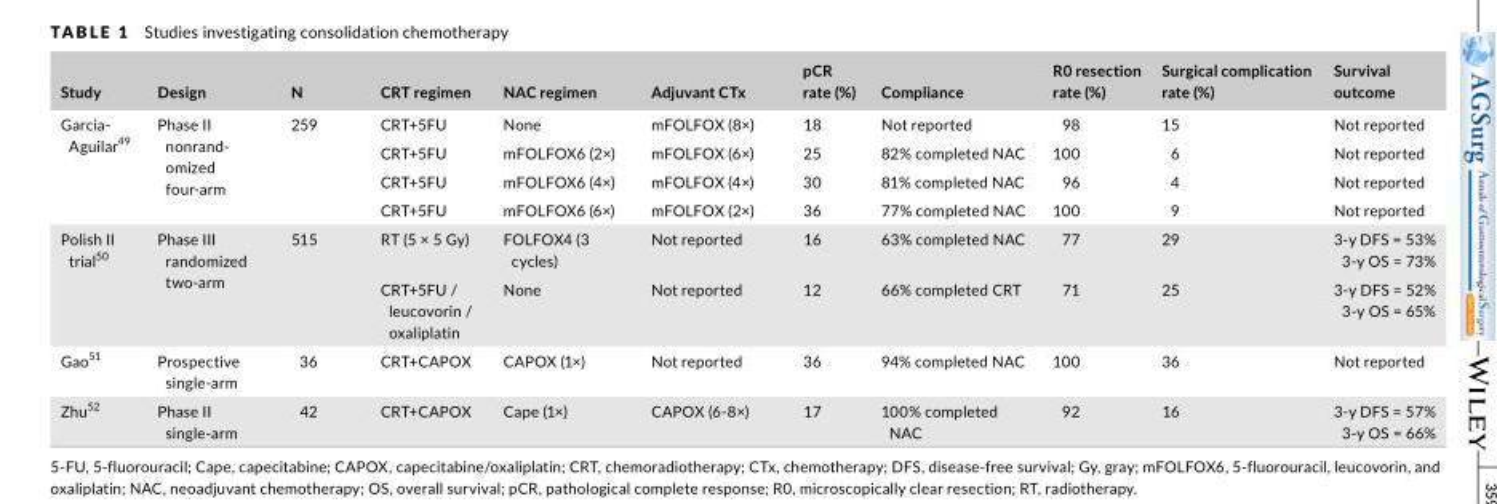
<table><thead><tr><td>Study</td><td>Design</td><td>N</td><td>CRT regimen</td><td>NAC regimen</td><td>Adjuvant CTx</td><td>pCR rate (%)</td><td>Compliance</td><td>R0 resection rate (%)</td><td>Surgical complication rate (%)</td><td>Survival outcome</td></tr></thead><tbody><tr><td rowspan="4">Garcia‐ Aguilar<sup>49</sup></td><td rowspan="4">Phase II nonrand‐ omized four‐arm</td><td rowspan="4">259</td><td>CRT+5FU</td><td>None</td><td>mFOLFOX (8×)</td><td>18</td><td>Not reported</td><td>98</td><td>15</td><td>Not reported</td></tr><tr><td>CRT+5FU</td><td>mFOLFOX6 (2×)</td><td>mFOLFOX (6×)</td><td>25</td><td>82% completed NAC</td><td>100</td><td>6</td><td>Not reported</td></tr><tr><td>CRT+5FU</td><td>mFOLFOX6 (4×)</td><td>mFOLFOX (4×)</td><td>30</td><td>81% completed NAC</td><td>96</td><td>4</td><td>Not reported</td></tr><tr><td>CRT+5FU</td><td>mFOLFOX6 (6×)</td><td>mFOLFOX (2×)</td><td>36</td><td>77% completed NAC</td><td>100</td><td>9</td><td>Not reported</td></tr><tr><td rowspan="2">Polish II trial<sup>50</sup></td><td rowspan="2">Phase III randomized two‐arm</td><td rowspan="2">515</td><td>RT (5 × 5 Gy)</td><td>FOLFOX4 (3 cycles)</td><td>Not reported</td><td>16</td><td>63% completed NAC</td><td>77</td><td>29</td><td>3‐y DFS = 53% 3‐y OS = 73%</td></tr><tr><td>CRT+5FU / leucovorin / oxaliplatin</td><td>None</td><td>Not reported</td><td>12</td><td>66% completed CRT</td><td>71</td><td>25</td><td>3‐y DFS = 52% 3‐y OS = 65%</td></tr><tr><td>Gao<sup>51</sup></td><td>Prospective single‐arm</td><td>36</td><td>CRT+CAPOX</td><td>CAPOX (1×)</td><td>Not reported</td><td>36</td><td>94% completed NAC</td><td>100</td><td>36</td><td>Not reported</td></tr><tr><td>Zhu<sup>52</sup></td><td>Phase II single‐arm</td><td>42</td><td>CRT+CAPOX</td><td>Cape (1×)</td><td>CAPOX (6‐8×)</td><td>17</td><td>100% completed NAC</td><td>92</td><td>16</td><td>3‐y DFS = 57% 3‐y OS = 66%</td></tr></tbody></table>